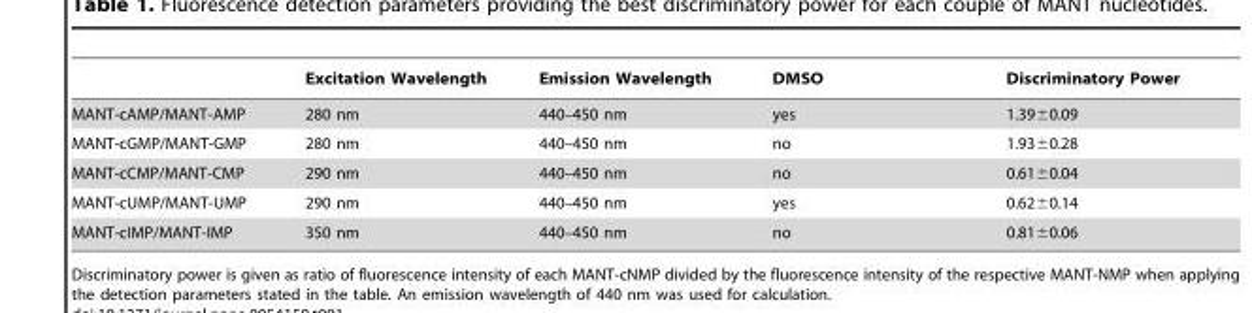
<table><thead><tr><td></td><td>Excitation Wavelength</td><td>Emission Wavelength</td><td>DMSO</td><td>Discriminatory Power</td></tr></thead><tbody><tr><td>MANT-cAMP/MANT-AMP</td><td>280 nm</td><td>440–450 nm</td><td>yes</td><td>1.39±0.09</td></tr><tr><td>MANT-cGMP/MANT-GMP</td><td>280 nm</td><td>440–450 nm</td><td>no</td><td>1.93±0.28</td></tr><tr><td>MANT-cCMP/MANT-CMP</td><td>290 nm</td><td>440–450 nm</td><td>no</td><td>0.61±0.04</td></tr><tr><td>MANT-cUMP/MANT-UMP</td><td>290 nm</td><td>440–450 nm</td><td>yes</td><td>0.62±0.14</td></tr><tr><td>MANT-cIMP/MANT-IMP</td><td>350 nm</td><td>440–450 nm</td><td>no</td><td>0.81±0.06</td></tr></tbody></table>